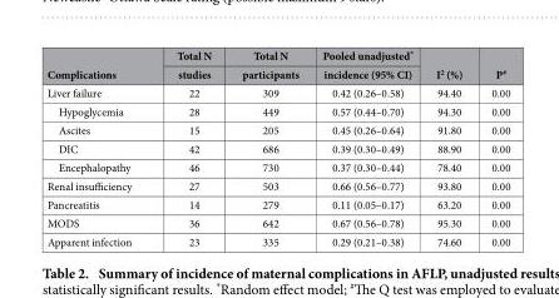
<table><thead><tr><td rowspan="2">Complications</td><td rowspan="2">Total N studies</td><td rowspan="2">Total N participants</td><td rowspan="2">Pooled unadjusted* incidence (95% CI)</td><td rowspan="2">I<sup>2</sup> (%)</td><td rowspan="2">P#</td></tr><tr></tr></thead><tbody><tr><td>Liver failure</td><td>22</td><td>309</td><td>0.42 (0.26–0.58)</td><td>94.40</td><td>0.00</td></tr><tr><td>Hypoglycemia</td><td>28</td><td>449</td><td>0.57 (0.44–0.70)</td><td>94.30</td><td>0.00</td></tr><tr><td>Ascites</td><td>15</td><td>205</td><td>0.45 (0.26–0.64)</td><td>91.80</td><td>0.00</td></tr><tr><td>DIC</td><td>42</td><td>686</td><td>0.39 (0.30–0.49)</td><td>88.90</td><td>0.00</td></tr><tr><td>Encephalopathy</td><td>46</td><td>730</td><td>0.37 (0.30–0.44)</td><td>78.40</td><td>0.00</td></tr><tr><td>Renal insufficiency</td><td>27</td><td>503</td><td>0.66 (0.56–0.77)</td><td>93.80</td><td>0.00</td></tr><tr><td>Pancreatitis</td><td>14</td><td>279</td><td>0.11 (0.05–0.17)</td><td>63.20</td><td>0.00</td></tr><tr><td>MODS</td><td>36</td><td>642</td><td>0.67 (0.56–0.78)</td><td>95.30</td><td>0.00</td></tr><tr><td>Apparent infection</td><td>23</td><td>335</td><td>0.29 (0.21–0.38)</td><td>74.60</td><td>0.00</td></tr></tbody></table>